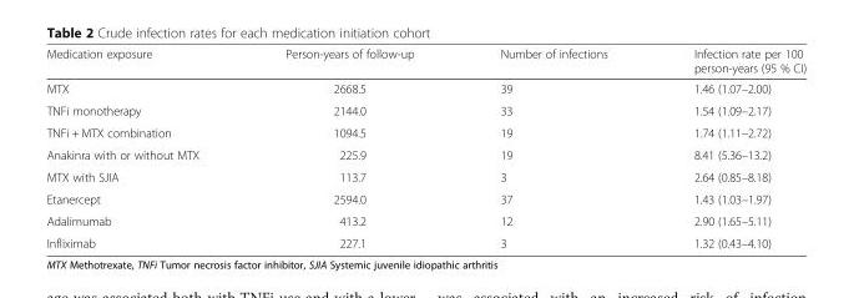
<table><thead><tr><td>Medication exposure</td><td>Person-years of follow-up</td><td>Number of infections</td><td>Infection rate per 100 person-years (95 % CI)</td></tr></thead><tbody><tr><td>MTX</td><td>2668.5</td><td>39</td><td>1.46 (1.07–2.00)</td></tr><tr><td>TNFi monotherapy</td><td>2144.0</td><td>33</td><td>1.54 (1.09–2.17)</td></tr><tr><td>TNFi + MTX combination</td><td>1094.5</td><td>19</td><td>1.74 (1.11–2.72)</td></tr><tr><td>Anakinra with or without MTX</td><td>225.9</td><td>19</td><td>8.41 (5.36–13.2)</td></tr><tr><td>MTX with SJIA</td><td>113.7</td><td>3</td><td>2.64 (0.85–8.18)</td></tr><tr><td>Etanercept</td><td>2594.0</td><td>37</td><td>1.43 (1.03–1.97)</td></tr><tr><td>Adalimumab</td><td>413.2</td><td>12</td><td>2.90 (1.65–5.11)</td></tr><tr><td>Infliximab</td><td>227.1</td><td>3</td><td>1.32 (0.43–4.10)</td></tr></tbody></table>